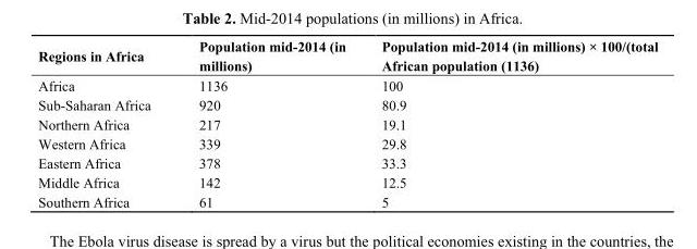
<table><thead><tr><td>Regions in Africa</td><td>Population mid-2014 (in millions)</td><td>Population mid-2014 (in millions) × 100/(total African population (1136)</td></tr></thead><tbody><tr><td>Africa</td><td>1136</td><td>100</td></tr><tr><td>Sub-Saharan Africa</td><td>920</td><td>80.9</td></tr><tr><td>Northern Africa</td><td>217</td><td>19.1</td></tr><tr><td>Western Africa</td><td>339</td><td>29.8</td></tr><tr><td>Eastern Africa</td><td>378</td><td>33.3</td></tr><tr><td>Middle Africa</td><td>142</td><td>12.5</td></tr><tr><td>Southern Africa</td><td>61</td><td>5</td></tr></tbody></table>